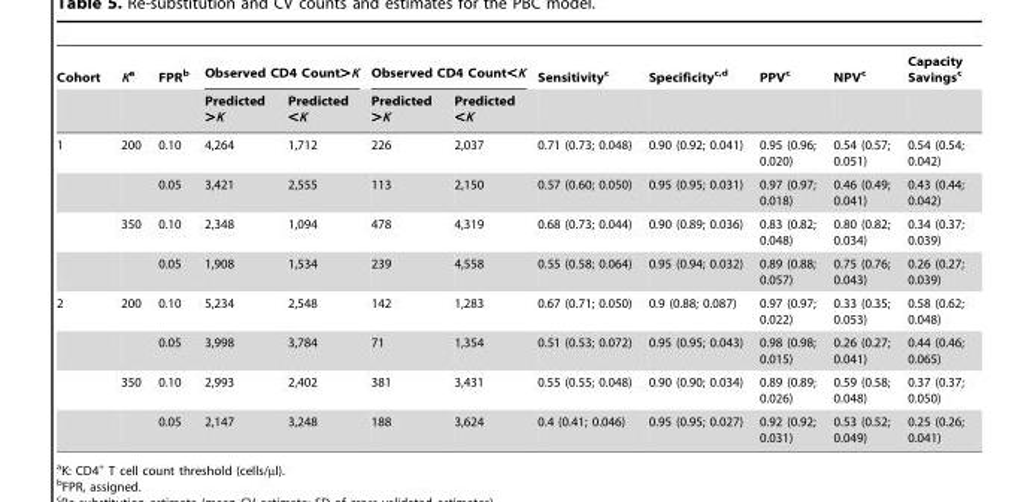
<table><thead><tr><td rowspan="2">Cohort</td><td rowspan="2">Ka</td><td rowspan="2">FPR<sup>b</sup></td><td colspan="2">Observed CD4 Count&gt;K</td><td colspan="2">Observed CD4 Count&lt;K</td><td rowspan="2">Sensitivity<sup>c</sup></td><td rowspan="2">Specificity<sup>c,</sup>d</td><td rowspan="2">PPV<sup>c</sup></td><td rowspan="2">NPV<sup>c</sup></td><td rowspan="2">Capacity Savings<sup>c</sup></td></tr><tr><td>Predicted &gt;K</td><td>Predicted &lt;K</td><td>Predicted &gt;K</td><td>Predicted &lt;K</td></tr></thead><tbody><tr><td rowspan="4">1</td><td>200</td><td>0.10</td><td>4,264</td><td>1,712</td><td>226</td><td>2,037</td><td>0.71 (0.73; 0.048)</td><td>0.90 (0.92; 0.041)</td><td>0.95 (0.96; 0.020)</td><td>0.54 (0.57; 0.051)</td><td>0.54 (0.54; 0.042)</td></tr><tr><td></td><td>0.05</td><td>3,421</td><td>2,555</td><td>113</td><td>2,150</td><td>0.57 (0.60; 0.050)</td><td>0.95 (0.95; 0.031)</td><td>0.97 (0.97; 0.018)</td><td>0.46 (0.49; 0.041)</td><td>0.43 (0.44; 0.042)</td></tr><tr><td>350</td><td>0.10</td><td>2,348</td><td>1,094</td><td>478</td><td>4,319</td><td>0.68 (0.73; 0.044)</td><td>0.90 (0.89; 0.036)</td><td>0.83 (0.82; 0.048)</td><td>0.80 (0.82; 0.034)</td><td>0.34 (0.37; 0.039)</td></tr><tr><td></td><td>0.05</td><td>1,908</td><td>1,534</td><td>239</td><td>4,558</td><td>0.55 (0.58; 0.064)</td><td>0.95 (0.94; 0.032)</td><td>0.89 (0.88; 0.057)</td><td>0.75 (0.76; 0.043)</td><td>0.26 (0.27; 0.039)</td></tr><tr><td rowspan="4">2</td><td>200</td><td>0.10</td><td>5,234</td><td>2,548</td><td>142</td><td>1,283</td><td>0.67 (0.71; 0.050)</td><td>0.9 (0.88; 0.087)</td><td>0.97 (0.97; 0.022)</td><td>0.33 (0.35; 0.053)</td><td>0.58 (0.62; 0.048)</td></tr><tr><td></td><td>0.05</td><td>3,998</td><td>3,784</td><td>71</td><td>1,354</td><td>0.51 (0.53; 0.072)</td><td>0.95 (0.95; 0.043)</td><td>0.98 (0.98; 0.015)</td><td>0.26 (0.27; 0.041)</td><td>0.44 (0.46; 0.065)</td></tr><tr><td>350</td><td>0.10</td><td>2,993</td><td>2,402</td><td>381</td><td>3,431</td><td>0.55 (0.55; 0.048)</td><td>0.90 (0.90; 0.034)</td><td>0.89 (0.89; 0.026)</td><td>0.59 (0.58; 0.048)</td><td>0.37 (0.37; 0.050)</td></tr><tr><td></td><td>0.05</td><td>2,147</td><td>3,248</td><td>188</td><td>3,624</td><td>0.4 (0.41; 0.046)</td><td>0.95 (0.95; 0.027)</td><td>0.92 (0.92; 0.031)</td><td>0.53 (0.52; 0.049)</td><td>0.25 (0.26; 0.041)</td></tr></tbody></table>